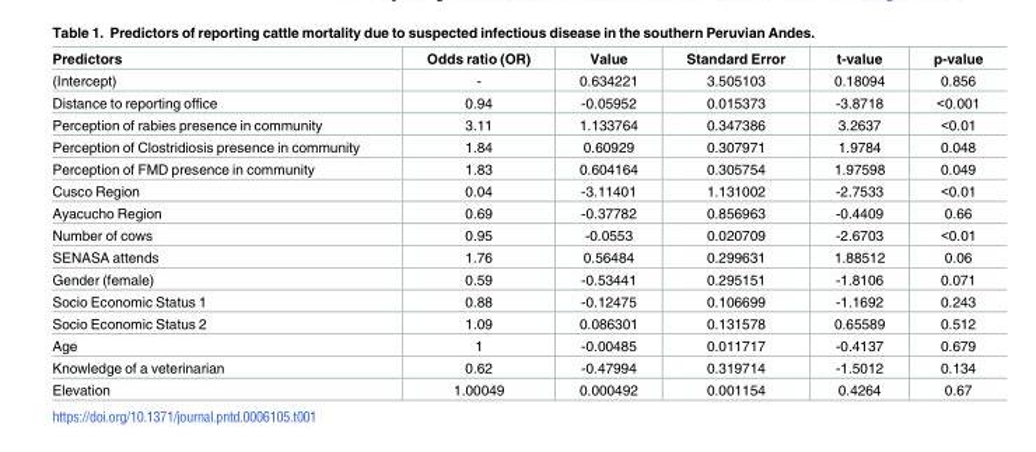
<table><thead><tr><td>Predictors</td><td>Odds ratio (OR)</td><td>Value</td><td>Standard Error</td><td>t-value</td><td>p-value</td></tr></thead><tbody><tr><td>(Intercept)</td><td>-</td><td>0.634221</td><td>3.505103</td><td>0.18094</td><td>0.856</td></tr><tr><td>Distance to reporting office</td><td>0.94</td><td>-0.05952</td><td>0.015373</td><td>-3.8718</td><td>&lt;0.001</td></tr><tr><td>Perception of rabies presence in community</td><td>3.11</td><td>1.133764</td><td>0.347386</td><td>3.2637</td><td>&lt;0.01</td></tr><tr><td>Perception of Clostridiosis presence in community</td><td>1.84</td><td>0.60929</td><td>0.307971</td><td>1.9784</td><td>0.048</td></tr><tr><td>Perception of FMD presence in community</td><td>1.83</td><td>0.604164</td><td>0.305754</td><td>1.97598</td><td>0.049</td></tr><tr><td>Cusco Region</td><td>0.04</td><td>-3.11401</td><td>1.131002</td><td>-2.7533</td><td>&lt;0.01</td></tr><tr><td>Ayacucho Region</td><td>0.69</td><td>-0.37782</td><td>0.856963</td><td>-0.4409</td><td>0.66</td></tr><tr><td>Number of cows</td><td>0.95</td><td>-0.0553</td><td>0.020709</td><td>-2.6703</td><td>&lt;0.01</td></tr><tr><td>SENASA attends</td><td>1.76</td><td>0.56484</td><td>0.299631</td><td>1.88512</td><td>0.06</td></tr><tr><td>Gender (female)</td><td>0.59</td><td>-0.53441</td><td>0.295151</td><td>-1.8106</td><td>0.071</td></tr><tr><td>Socio Economic Status 1</td><td>0.88</td><td>-0.12475</td><td>0.106699</td><td>-1.1692</td><td>0.243</td></tr><tr><td>Socio Economic Status 2</td><td>1.09</td><td>0.086301</td><td>0.131578</td><td>0.65589</td><td>0.512</td></tr><tr><td>Age</td><td>1</td><td>-0.00485</td><td>0.011717</td><td>-0.4137</td><td>0.679</td></tr><tr><td>Knowledge of a veterinarian</td><td>0.62</td><td>-0.47994</td><td>0.319714</td><td>-1.5012</td><td>0.134</td></tr><tr><td>Elevation</td><td>1.00049</td><td>0.000492</td><td>0.001154</td><td>0.4264</td><td>0.67</td></tr></tbody></table>